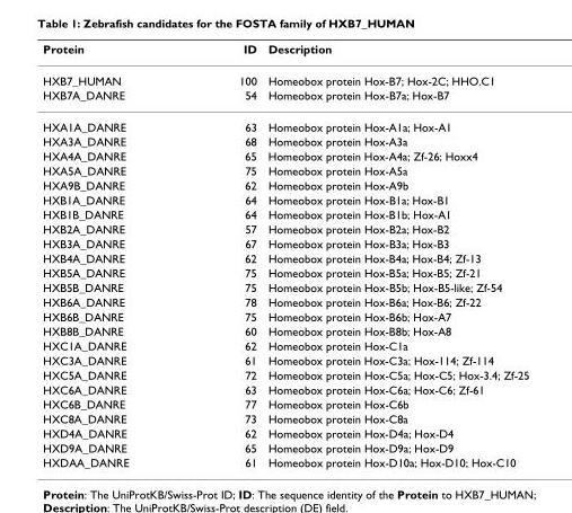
<table><thead><tr><td>Protein</td><td>ID</td><td>Description</td></tr></thead><tbody><tr><td>HXB7_HUMAN</td><td>100</td><td>Homeobox protein Hox-B7; Hox-2C; HHO.C1</td></tr><tr><td>HXB7A_DANRE</td><td>54</td><td>Homeobox protein Hox-B7a; Hox-B7</td></tr><tr><td>HXA1A_DANRE</td><td>63</td><td>Homeobox protein Hox-A1a; Hox-A1</td></tr><tr><td>HXA3A_DANRE</td><td>68</td><td>Homeobox protein Hox-A3a</td></tr><tr><td>HXA4A_DANRE</td><td>65</td><td>Homeobox protein Hox-A4a; Zf-26; Hoxx4</td></tr><tr><td>HXA5A_DANRE</td><td>75</td><td>Homeobox protein Hox-A5a</td></tr><tr><td>HXA9B_DANRE</td><td>62</td><td>Homeobox protein Hox-A9b</td></tr><tr><td>HXB1A_DANRE</td><td>64</td><td>Homeobox protein Hox-B1a; Hox-B1</td></tr><tr><td>HXB1B_DANRE</td><td>64</td><td>Homeobox protein Hox-B1b; Hox-A1</td></tr><tr><td>HXB2A_DANRE</td><td>57</td><td>Homeobox protein Hox-B2a; Hox-B2</td></tr><tr><td>HXB3A_DANRE</td><td>67</td><td>Homeobox protein Hox-B3a; Hox-B3</td></tr><tr><td>HXB4A_DANRE</td><td>62</td><td>Homeobox protein Hox-B4a; Hox-B4; Zf-13</td></tr><tr><td>HXB5A_DANRE</td><td>75</td><td>Homeobox protein Hox-B5a; Hox-B5; Zf-21</td></tr><tr><td>HXB5B_DANRE</td><td>75</td><td>Homeobox protein Hox-B5b; Hox-B5-like; Zf-54</td></tr><tr><td>HXB6A_DANRE</td><td>78</td><td>Homeobox protein Hox-B6a; Hox-B6; Zf-22</td></tr><tr><td>HXB6B_DANRE</td><td>75</td><td>Homeobox protein Hox-B6b; Hox-A7</td></tr><tr><td>HXB8B_DANRE</td><td>60</td><td>Homeobox protein Hox-B8b; Hox-A8</td></tr><tr><td>HXC1A_DANRE</td><td>62</td><td>Homeobox protein Hox-C1a</td></tr><tr><td>HXC3A_DANRE</td><td>61</td><td>Homeobox protein Hox-C3a; Hox-114; Zf-114</td></tr><tr><td>HXC5A_DANRE</td><td>72</td><td>Homeobox protein Hox-C5a; Hox-C5; Hox-3.4; Zf-25</td></tr><tr><td>HXC6A_DANRE</td><td>63</td><td>Homeobox protein Hox-C6a; Hox-C6; Zf-61</td></tr><tr><td>HXC6B_DANRE</td><td>77</td><td>Homeobox protein Hox-C6b</td></tr><tr><td>HXC8A_DANRE</td><td>73</td><td>Homeobox protein Hox-C8a</td></tr><tr><td>HXD4A_DANRE</td><td>62</td><td>Homeobox protein Hox-D4a; Hox-D4</td></tr><tr><td>HXD9A_DANRE</td><td>65</td><td>Homeobox protein Hox-D9a; Hox-D9</td></tr><tr><td>HXDAA_DANRE</td><td>61</td><td>Homeobox protein Hox-D10a; Hox-D10; Hox-C10</td></tr></tbody></table>